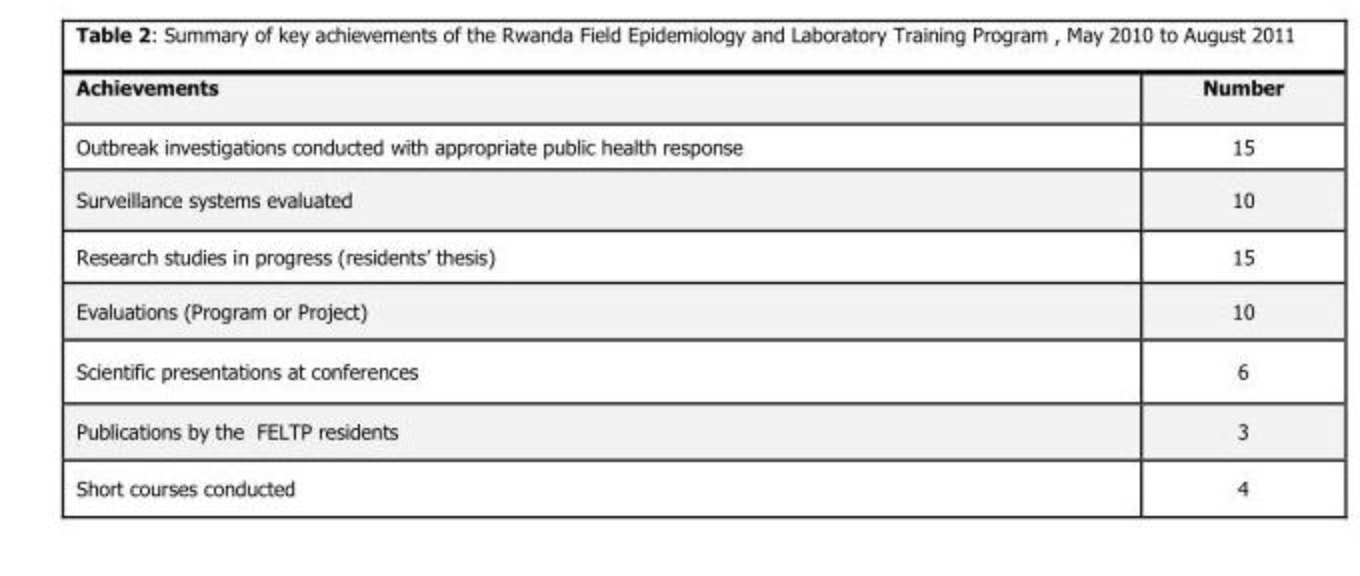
<table><thead><tr><td>Achievements</td><td>Number</td></tr></thead><tbody><tr><td>Outbreak investigations conducted with appropriate public health response</td><td>15</td></tr><tr><td>Surveillance systems evaluated</td><td>10</td></tr><tr><td>Research studies in progress (residents’ thesis)</td><td>15</td></tr><tr><td>Evaluations (Program or Project)</td><td>10</td></tr><tr><td>Scientific presentations at conferences</td><td>6</td></tr><tr><td>Publications by the FELTP residents</td><td>3</td></tr><tr><td>Short courses conducted</td><td>4</td></tr></tbody></table>